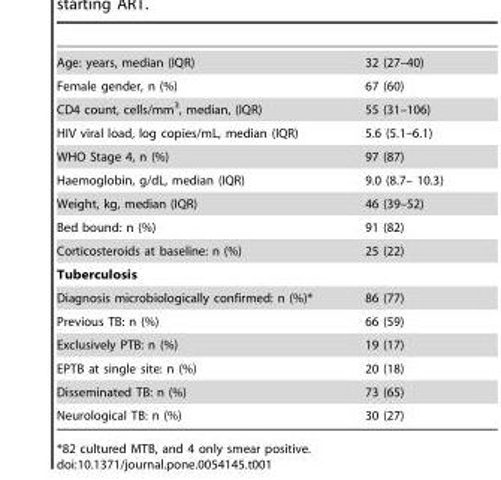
<table><tbody><tr><td>Age: years, median (IQR)</td><td>32 (27–40)</td></tr><tr><td>Female gender, n (%)</td><td>67 (60)</td></tr><tr><td>CD4 count, cells/mm<sup>3</sup>, median, (IQR)</td><td>55 (31–106)</td></tr><tr><td>HIV viral load, log copies/mL, median (IQR)</td><td>5.6 (5.1–6.1)</td></tr><tr><td>WHO Stage 4, n (%)</td><td>97 (87)</td></tr><tr><td>Haemoglobin, g/dL, median (IQR)</td><td>9.0 (8.7– 10.3)</td></tr><tr><td>Weight, kg, median (IQR)</td><td>46 (39–52)</td></tr><tr><td>Bed bound: n (%)</td><td>91 (82)</td></tr><tr><td>Corticosteroids at baseline: n (%)</td><td>25 (22)</td></tr><tr><td colspan="2">Tuberculosis</td></tr><tr><td>Diagnosis microbiologically confirmed: n (%)*</td><td>86 (77)</td></tr><tr><td>Previous TB: n (%)</td><td>66 (59)</td></tr><tr><td>Exclusively PTB: n (%)</td><td>19 (17)</td></tr><tr><td>EPTB at single site: n (%)</td><td>20 (18)</td></tr><tr><td>Disseminated TB: n (%)</td><td>73 (65)</td></tr><tr><td>Neurological TB: n (%)</td><td>30 (27)</td></tr></tbody></table>